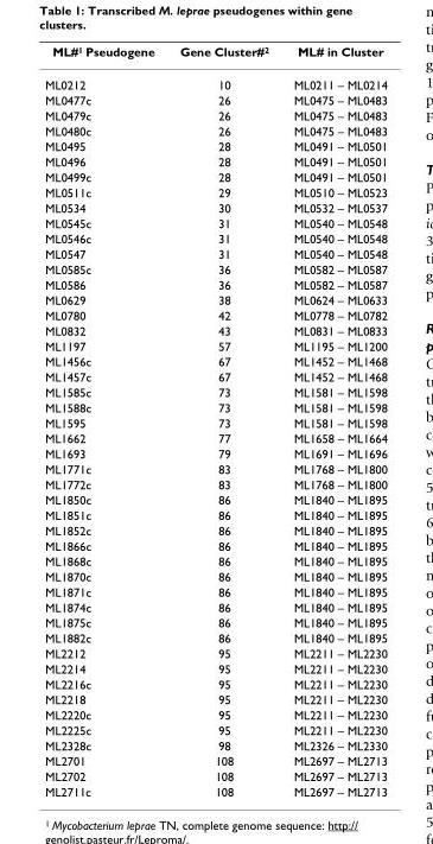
<table><thead><tr><td>ML#<sup>1</sup> Pseudogene</td><td>Gene Cluster#<sup>2</sup></td><td>ML# in Cluster</td></tr></thead><tbody><tr><td>ML0212</td><td>10</td><td>ML0211 – ML0214</td></tr><tr><td>ML0477c</td><td>26</td><td>ML0475 – ML0483</td></tr><tr><td>ML0479c</td><td>26</td><td>ML0475 – ML0483</td></tr><tr><td>ML0480c</td><td>26</td><td>ML0475 – ML0483</td></tr><tr><td>ML0495</td><td>28</td><td>ML0491 – ML0501</td></tr><tr><td>ML0496</td><td>28</td><td>ML0491 – ML0501</td></tr><tr><td>ML0499c</td><td>28</td><td>ML0491 – ML0501</td></tr><tr><td>ML0511c</td><td>29</td><td>ML0510 – ML0523</td></tr><tr><td>ML0534</td><td>30</td><td>ML0532 – ML0537</td></tr><tr><td>ML0545c</td><td>31</td><td>ML0540 – ML0548</td></tr><tr><td>ML0546c</td><td>31</td><td>ML0540 – ML0548</td></tr><tr><td>ML0547</td><td>31</td><td>ML0540 – ML0548</td></tr><tr><td>ML0585c</td><td>36</td><td>ML0582 – ML0587</td></tr><tr><td>ML0586</td><td>36</td><td>ML0582 – ML0587</td></tr><tr><td>ML0629</td><td>38</td><td>ML0624 – ML0633</td></tr><tr><td>ML0780</td><td>42</td><td>ML0778 – ML0782</td></tr><tr><td>ML0832</td><td>43</td><td>ML0831 – ML0833</td></tr><tr><td>ML1197</td><td>57</td><td>ML1195 – ML1200</td></tr><tr><td>ML1456c</td><td>67</td><td>ML1452 – ML1468</td></tr><tr><td>ML1457c</td><td>67</td><td>ML1452 – ML1468</td></tr><tr><td>ML1585c</td><td>73</td><td>ML1581 – ML1598</td></tr><tr><td>ML1588c</td><td>73</td><td>ML1581 – ML1598</td></tr><tr><td>ML1595</td><td>73</td><td>ML1581 – ML1598</td></tr><tr><td>ML1662</td><td>77</td><td>ML1658 – ML1664</td></tr><tr><td>ML1693</td><td>79</td><td>ML1691 – ML1696</td></tr><tr><td>ML1771c</td><td>83</td><td>ML1768 – ML1800</td></tr><tr><td>ML1772c</td><td>83</td><td>ML1768 – ML1800</td></tr><tr><td>ML1850c</td><td>86</td><td>ML1840 – ML1895</td></tr><tr><td>ML1851c</td><td>86</td><td>ML1840 – ML1895</td></tr><tr><td>ML1852c</td><td>86</td><td>ML1840 – ML1895</td></tr><tr><td>ML1866c</td><td>86</td><td>ML1840 – ML1895</td></tr><tr><td>ML1868c</td><td>86</td><td>ML1840 – ML1895</td></tr><tr><td>ML1870c</td><td>86</td><td>ML1840 – ML1895</td></tr><tr><td>ML1871c</td><td>86</td><td>ML1840 – ML1895</td></tr><tr><td>ML1874c</td><td>86</td><td>ML1840 – ML1895</td></tr><tr><td>ML1875c</td><td>86</td><td>ML1840 – ML1895</td></tr><tr><td>ML1882c</td><td>86</td><td>ML1840 – ML1895</td></tr><tr><td>ML2212</td><td>95</td><td>ML2211 – ML2230</td></tr><tr><td>ML2214</td><td>95</td><td>ML2211 – ML2230</td></tr><tr><td>ML2216c</td><td>95</td><td>ML2211 – ML2230</td></tr><tr><td>ML2218</td><td>95</td><td>ML2211 – ML2230</td></tr><tr><td>ML2220c</td><td>95</td><td>ML2211 – ML2230</td></tr><tr><td>ML2225c</td><td>95</td><td>ML2211 – ML2230</td></tr><tr><td>ML2328c</td><td>98</td><td>ML2326 – ML2330</td></tr><tr><td>ML2701</td><td>108</td><td>ML2697 – ML2713</td></tr><tr><td>ML2702</td><td>108</td><td>ML2697 – ML2713</td></tr><tr><td>ML2711c</td><td>108</td><td>ML2697 – ML2713</td></tr></tbody></table>